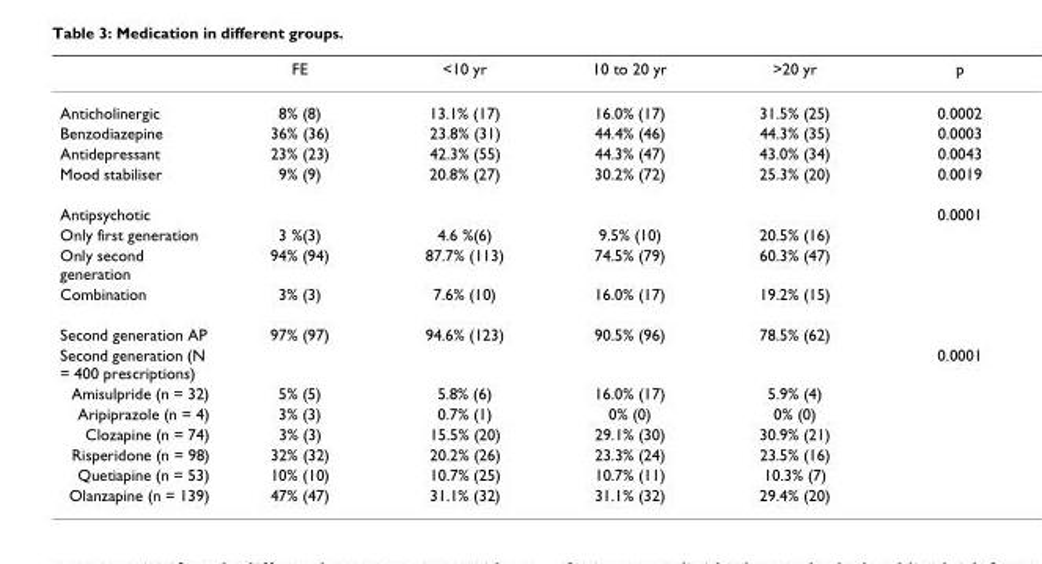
<table><thead><tr><td></td><td>FE</td><td>&lt;10 yr</td><td>10 to 20 yr</td><td>&gt;20 yr</td><td>p</td></tr></thead><tbody><tr><td>Anticholinergic</td><td>8% (8)</td><td>13.1% (17)</td><td>16.0% (17)</td><td>31.5% (25)</td><td>0.0002</td></tr><tr><td>Benzodiazepine</td><td>36% (36)</td><td>23.8% (31)</td><td>44.4% (46)</td><td>44.3% (35)</td><td>0.0003</td></tr><tr><td>Antidepressant</td><td>23% (23)</td><td>42.3% (55)</td><td>44.3% (47)</td><td>43.0% (34)</td><td>0.0043</td></tr><tr><td>Mood stabiliser</td><td>9% (9)</td><td>20.8% (27)</td><td>30.2% (72)</td><td>25.3% (20)</td><td>0.0019</td></tr><tr><td>Antipsychotic</td><td></td><td></td><td></td><td></td><td>0.0001</td></tr><tr><td>Only first generation</td><td>3 %(3)</td><td>4.6 %(6)</td><td>9.5% (10)</td><td>20.5% (16)</td><td></td></tr><tr><td>Only second generation</td><td>94% (94)</td><td>87.7% (113)</td><td>74.5% (79)</td><td>60.3% (47)</td><td></td></tr><tr><td>Combination</td><td>3% (3)</td><td>7.6% (10)</td><td>16.0% (17)</td><td>19.2% (15)</td><td></td></tr><tr><td>Second generation AP</td><td>97% (97)</td><td>94.6% (123)</td><td>90.5% (96)</td><td>78.5% (62)</td><td></td></tr><tr><td>Second generation (N = 400 prescriptions)</td><td></td><td></td><td></td><td></td><td>0.0001</td></tr><tr><td>Amisulpride (n = 32)</td><td>5% (5)</td><td>5.8% (6)</td><td>16.0% (17)</td><td>5.9% (4)</td><td></td></tr><tr><td>Aripiprazole (n = 4)</td><td>3% (3)</td><td>0.7% (1)</td><td>0% (0)</td><td>0% (0)</td><td></td></tr><tr><td>Clozapine (n = 74)</td><td>3% (3)</td><td>15.5% (20)</td><td>29.1% (30)</td><td>30.9% (21)</td><td></td></tr><tr><td>Risperidone (n = 98)</td><td>32% (32)</td><td>20.2% (26)</td><td>23.3% (24)</td><td>23.5% (16)</td><td></td></tr><tr><td>Quetiapine (n = 53)</td><td>10% (10)</td><td>10.7% (25)</td><td>10.7% (11)</td><td>10.3% (7)</td><td></td></tr><tr><td>Olanzapine (n = 139)</td><td>47% (47)</td><td>31.1% (32)</td><td>31.1% (32)</td><td>29.4% (20)</td><td></td></tr></tbody></table>